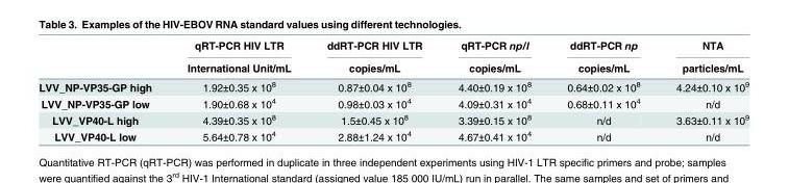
<table><thead><tr><td rowspan="2"></td><td rowspan="2">qRT-PCR HIV LTR International Unit/mL</td><td rowspan="2">ddRT-PCR HIV LTR copies/mL</td><td rowspan="2">qRT-PCR np/l copies/mL</td><td rowspan="2">ddRT-PCR np copies/mL</td><td rowspan="2">NTA particles/mL</td></tr><tr></tr></thead><tbody><tr><td>LVV_NP-VP35-GP high</td><td>1.92±0.35 x 10<sup>8</sup></td><td>0.87±0.04 x 10<sup>8</sup></td><td>4.40±0.19 x 10<sup>8</sup></td><td>0.64±0.02 x 10<sup>8</sup></td><td>4.24±0.10 x 10<sup>9</sup></td></tr><tr><td>LVV_NP-VP35-GP low</td><td>1.90±0.68 x 10<sup>4</sup></td><td>0.98±0.03 x 10<sup>4</sup></td><td>4.09±0.31 x 10<sup>4</sup></td><td>0.68±0.11 x 10<sup>4</sup></td><td>n/d</td></tr><tr><td>LVV_VP40-L high</td><td>4.39±0.35 x 10<sup>8</sup></td><td>1.5±0.45 x 10<sup>8</sup></td><td>3.39±0.15 x 10<sup>8</sup></td><td>n/d</td><td>3.63±0.11 x 10<sup>9</sup></td></tr><tr><td>LVV_VP40-L low</td><td>5.64±0.78 x 10<sup>4</sup></td><td>2.88±1.24 x 10<sup>4</sup></td><td>4.67±0.41 x 10<sup>4</sup></td><td>n/d</td><td>n/d</td></tr></tbody></table>